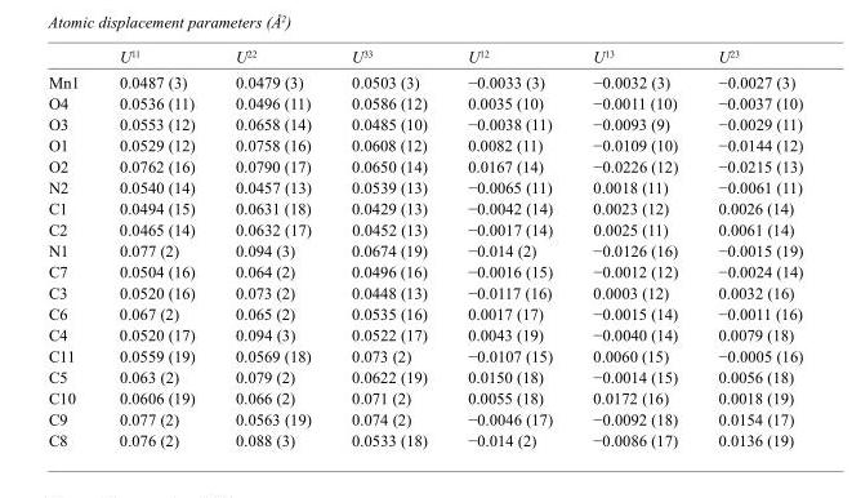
<table><thead><tr><td></td><td>U<sup>11</sup></td><td>U<sup>22</sup></td><td>U<sup>33</sup></td><td>U<sup>12</sup></td><td>U<sup>13</sup></td><td>U<sup>23</sup></td></tr></thead><tbody><tr><td>Mn1</td><td>0.0487 (3)</td><td>0.0479 (3)</td><td>0.0503 (3)</td><td>−0.0033 (3)</td><td>−0.0032 (3)</td><td>−0.0027 (3)</td></tr><tr><td>O4</td><td>0.0536 (11)</td><td>0.0496 (11)</td><td>0.0586 (12)</td><td>0.0035 (10)</td><td>−0.0011 (10)</td><td>−0.0037 (10)</td></tr><tr><td>O3</td><td>0.0553 (12)</td><td>0.0658 (14)</td><td>0.0485 (10)</td><td>−0.0038 (11)</td><td>−0.0093 (9)</td><td>−0.0029 (11)</td></tr><tr><td>O1</td><td>0.0529 (12)</td><td>0.0758 (16)</td><td>0.0608 (12)</td><td>0.0082 (11)</td><td>−0.0109 (10)</td><td>−0.0144 (12)</td></tr><tr><td>O2</td><td>0.0762 (16)</td><td>0.0790 (17)</td><td>0.0650 (14)</td><td>0.0167 (14)</td><td>−0.0226 (12)</td><td>−0.0215 (13)</td></tr><tr><td>N2</td><td>0.0540 (14)</td><td>0.0457 (13)</td><td>0.0539 (13)</td><td>−0.0065 (11)</td><td>0.0018 (11)</td><td>−0.0061 (11)</td></tr><tr><td>C1</td><td>0.0494 (15)</td><td>0.0631 (18)</td><td>0.0429 (13)</td><td>−0.0042 (14)</td><td>0.0023 (12)</td><td>0.0026 (14)</td></tr><tr><td>C2</td><td>0.0465 (14)</td><td>0.0632 (17)</td><td>0.0452 (13)</td><td>−0.0017 (14)</td><td>0.0025 (11)</td><td>0.0061 (14)</td></tr><tr><td>N1</td><td>0.077 (2)</td><td>0.094 (3)</td><td>0.0674 (19)</td><td>−0.014 (2)</td><td>−0.0126 (16)</td><td>−0.0015 (19)</td></tr><tr><td>C7</td><td>0.0504 (16)</td><td>0.064 (2)</td><td>0.0496 (16)</td><td>−0.0016 (15)</td><td>−0.0012 (12)</td><td>−0.0024 (14)</td></tr><tr><td>C3</td><td>0.0520 (16)</td><td>0.073 (2)</td><td>0.0448 (13)</td><td>−0.0117 (16)</td><td>0.0003 (12)</td><td>0.0032 (16)</td></tr><tr><td>C6</td><td>0.067 (2)</td><td>0.065 (2)</td><td>0.0535 (16)</td><td>0.0017 (17)</td><td>−0.0015 (14)</td><td>−0.0011 (16)</td></tr><tr><td>C4</td><td>0.0520 (17)</td><td>0.094 (3)</td><td>0.0522 (17)</td><td>0.0043 (19)</td><td>−0.0040 (14)</td><td>0.0079 (18)</td></tr><tr><td>C11</td><td>0.0559 (19)</td><td>0.0569 (18)</td><td>0.073 (2)</td><td>−0.0107 (15)</td><td>0.0060 (15)</td><td>−0.0005 (16)</td></tr><tr><td>C5</td><td>0.063 (2)</td><td>0.079 (2)</td><td>0.0622 (19)</td><td>0.0150 (18)</td><td>−0.0014 (15)</td><td>0.0056 (18)</td></tr><tr><td>C10</td><td>0.0606 (19)</td><td>0.066 (2)</td><td>0.071 (2)</td><td>0.0055 (18)</td><td>0.0172 (16)</td><td>0.0018 (19)</td></tr><tr><td>C9</td><td>0.077 (2)</td><td>0.0563 (19)</td><td>0.074 (2)</td><td>−0.0046 (17)</td><td>−0.0092 (18)</td><td>0.0154 (17)</td></tr><tr><td>C8</td><td>0.076 (2)</td><td>0.088 (3)</td><td>0.0533 (18)</td><td>−0.014 (2)</td><td>−0.0086 (17)</td><td>0.0136 (19)</td></tr></tbody></table>